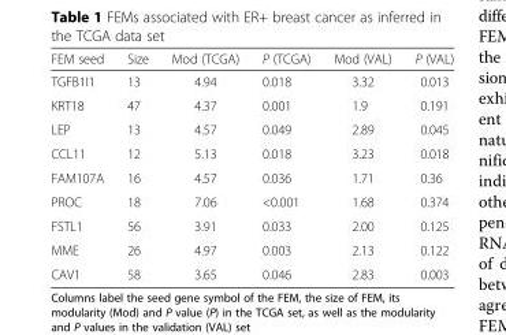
<table><thead><tr><td>FEM seed</td><td>Size</td><td>Mod (TCGA)</td><td>P (TCGA)</td><td>Mod (VAL)</td><td>P (VAL)</td></tr></thead><tbody><tr><td>TGFB1I1</td><td>13</td><td>4.94</td><td>0.018</td><td>3.32</td><td>0.013</td></tr><tr><td>KRT18</td><td>47</td><td>4.37</td><td>0.001</td><td>1.9</td><td>0.191</td></tr><tr><td>LEP</td><td>13</td><td>4.57</td><td>0.049</td><td>2.89</td><td>0.045</td></tr><tr><td>CCL11</td><td>12</td><td>5.13</td><td>0.018</td><td>3.23</td><td>0.018</td></tr><tr><td>FAM107A</td><td>16</td><td>4.57</td><td>0.036</td><td>1.71</td><td>0.36</td></tr><tr><td>PROC</td><td>18</td><td>7.06</td><td>&lt;0.001</td><td>1.68</td><td>0.374</td></tr><tr><td>FSTL1</td><td>56</td><td>3.91</td><td>0.033</td><td>2.00</td><td>0.125</td></tr><tr><td>MME</td><td>26</td><td>4.97</td><td>0.003</td><td>2.13</td><td>0.122</td></tr><tr><td>CAV1</td><td>58</td><td>3.65</td><td>0.046</td><td>2.83</td><td>0.003</td></tr></tbody></table>